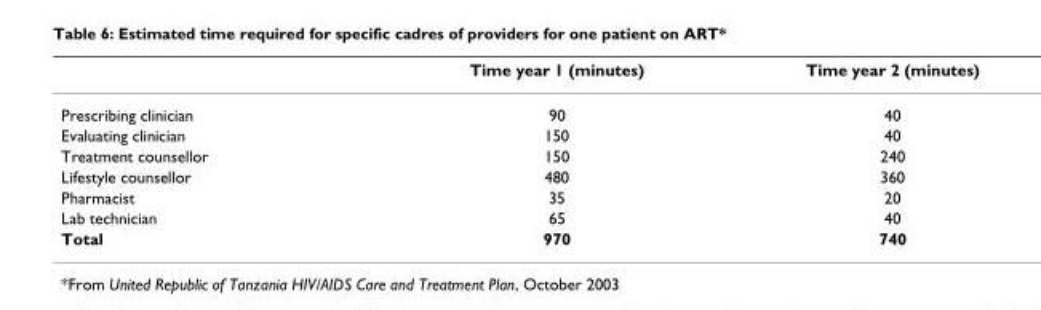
<table><thead><tr><td></td><td>Time year 1 (minutes)</td><td>Time year 2 (minutes)</td></tr></thead><tbody><tr><td>Prescribing clinician</td><td>90</td><td>40</td></tr><tr><td>Evaluating clinician</td><td>150</td><td>40</td></tr><tr><td>Treatment counsellor</td><td>150</td><td>240</td></tr><tr><td>Lifestyle counsellor</td><td>480</td><td>360</td></tr><tr><td>Pharmacist</td><td>35</td><td>20</td></tr><tr><td>Lab technician</td><td>65</td><td>40</td></tr><tr><td>Total</td><td>970</td><td>740</td></tr></tbody></table>